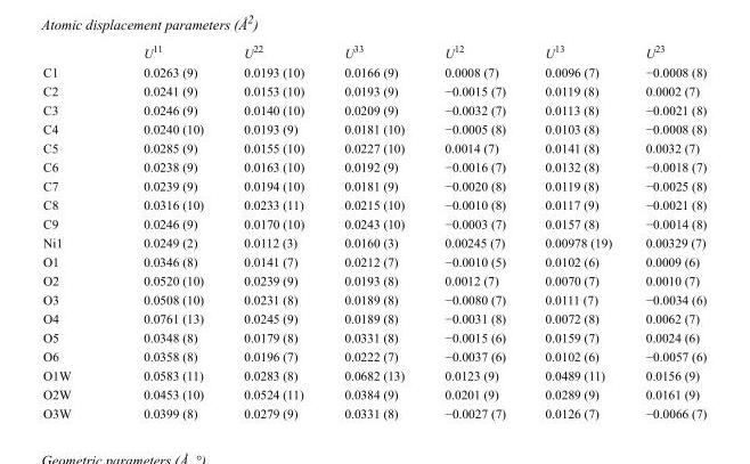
<table><thead><tr><td></td><td>U<sup>11</sup></td><td>U<sup>22</sup></td><td>U<sup>33</sup></td><td>U<sup>12</sup></td><td>U<sup>13</sup></td><td>U<sup>23</sup></td></tr></thead><tbody><tr><td>C1</td><td>0.0263 (9)</td><td>0.0193 (10)</td><td>0.0166 (9)</td><td>0.0008 (7)</td><td>0.0096 (7)</td><td>−0.0008 (8)</td></tr><tr><td>C2</td><td>0.0241 (9)</td><td>0.0153 (10)</td><td>0.0193 (9)</td><td>−0.0015 (7)</td><td>0.0119 (8)</td><td>0.0002 (7)</td></tr><tr><td>C3</td><td>0.0246 (9)</td><td>0.0140 (10)</td><td>0.0209 (9)</td><td>−0.0032 (7)</td><td>0.0113 (8)</td><td>−0.0021 (8)</td></tr><tr><td>C4</td><td>0.0240 (10)</td><td>0.0193 (9)</td><td>0.0181 (10)</td><td>−0.0005 (8)</td><td>0.0103 (8)</td><td>−0.0008 (8)</td></tr><tr><td>C5</td><td>0.0285 (9)</td><td>0.0155 (10)</td><td>0.0227 (10)</td><td>0.0014 (7)</td><td>0.0141 (8)</td><td>0.0032 (7)</td></tr><tr><td>C6</td><td>0.0238 (9)</td><td>0.0163 (10)</td><td>0.0192 (9)</td><td>−0.0016 (7)</td><td>0.0132 (8)</td><td>−0.0018 (7)</td></tr><tr><td>C7</td><td>0.0239 (9)</td><td>0.0194 (10)</td><td>0.0181 (9)</td><td>−0.0020 (8)</td><td>0.0119 (8)</td><td>−0.0025 (8)</td></tr><tr><td>C8</td><td>0.0316 (10)</td><td>0.0233 (11)</td><td>0.0215 (10)</td><td>−0.0010 (8)</td><td>0.0117 (9)</td><td>−0.0021 (8)</td></tr><tr><td>C9</td><td>0.0246 (9)</td><td>0.0170 (10)</td><td>0.0243 (10)</td><td>−0.0003 (7)</td><td>0.0157 (8)</td><td>−0.0014 (8)</td></tr><tr><td>Ni1</td><td>0.0249 (2)</td><td>0.0112 (3)</td><td>0.0160 (3)</td><td>0.00245 (7)</td><td>0.00978 (19)</td><td>0.00329 (7)</td></tr><tr><td>O1</td><td>0.0346 (8)</td><td>0.0141 (7)</td><td>0.0212 (7)</td><td>−0.0010 (5)</td><td>0.0102 (6)</td><td>0.0009 (6)</td></tr><tr><td>O2</td><td>0.0520 (10)</td><td>0.0239 (9)</td><td>0.0193 (8)</td><td>0.0012 (7)</td><td>0.0070 (7)</td><td>0.0010 (7)</td></tr><tr><td>O3</td><td>0.0508 (10)</td><td>0.0231 (8)</td><td>0.0189 (8)</td><td>−0.0080 (7)</td><td>0.0111 (7)</td><td>−0.0034 (6)</td></tr><tr><td>O4</td><td>0.0761 (13)</td><td>0.0245 (9)</td><td>0.0189 (8)</td><td>−0.0031 (8)</td><td>0.0072 (8)</td><td>0.0062 (7)</td></tr><tr><td>O5</td><td>0.0348 (8)</td><td>0.0179 (8)</td><td>0.0331 (8)</td><td>−0.0015 (6)</td><td>0.0159 (7)</td><td>0.0024 (6)</td></tr><tr><td>O6</td><td>0.0358 (8)</td><td>0.0196 (7)</td><td>0.0222 (7)</td><td>−0.0037 (6)</td><td>0.0102 (6)</td><td>−0.0057 (6)</td></tr><tr><td>O1W</td><td>0.0583 (11)</td><td>0.0283 (8)</td><td>0.0682 (13)</td><td>0.0123 (9)</td><td>0.0489 (11)</td><td>0.0156 (9)</td></tr><tr><td>O2W</td><td>0.0453 (10)</td><td>0.0524 (11)</td><td>0.0384 (9)</td><td>0.0201 (9)</td><td>0.0289 (9)</td><td>0.0161 (9)</td></tr><tr><td>O3W</td><td>0.0399 (8)</td><td>0.0279 (9)</td><td>0.0331 (8)</td><td>−0.0027 (7)</td><td>0.0126 (7)</td><td>−0.0066 (7)</td></tr></tbody></table>